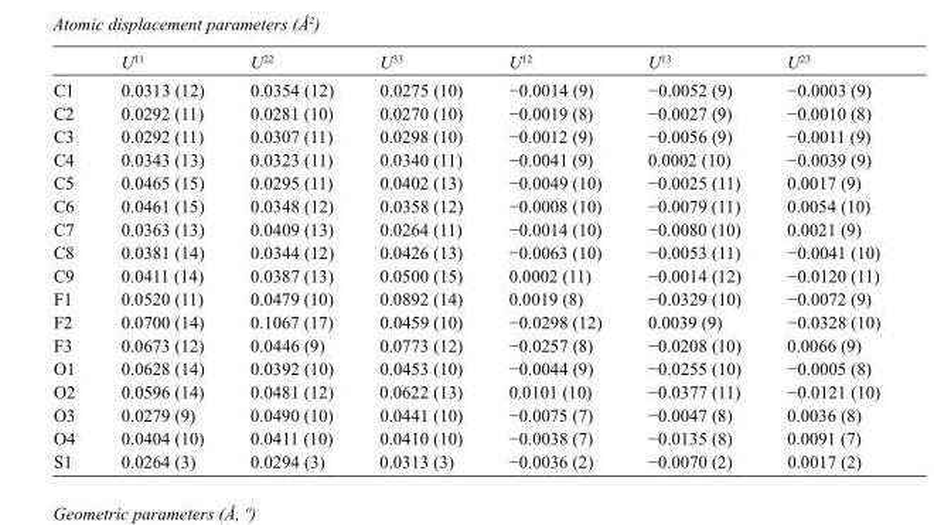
<table><thead><tr><td></td><td>U<sup>11</sup></td><td>U<sup>22</sup></td><td>U<sup>33</sup></td><td>U<sup>12</sup></td><td>U<sup>13</sup></td><td>U<sup>23</sup></td></tr></thead><tbody><tr><td>C1</td><td>0.0313 (12)</td><td>0.0354 (12)</td><td>0.0275 (10)</td><td>−0.0014 (9)</td><td>−0.0052 (9)</td><td>−0.0003 (9)</td></tr><tr><td>C2</td><td>0.0292 (11)</td><td>0.0281 (10)</td><td>0.0270 (10)</td><td>−0.0019 (8)</td><td>−0.0027 (9)</td><td>−0.0010 (8)</td></tr><tr><td>C3</td><td>0.0292 (11)</td><td>0.0307 (11)</td><td>0.0298 (10)</td><td>−0.0012 (9)</td><td>−0.0056 (9)</td><td>−0.0011 (9)</td></tr><tr><td>C4</td><td>0.0343 (13)</td><td>0.0323 (11)</td><td>0.0340 (11)</td><td>−0.0041 (9)</td><td>0.0002 (10)</td><td>−0.0039 (9)</td></tr><tr><td>C5</td><td>0.0465 (15)</td><td>0.0295 (11)</td><td>0.0402 (13)</td><td>−0.0049 (10)</td><td>−0.0025 (11)</td><td>0.0017 (9)</td></tr><tr><td>C6</td><td>0.0461 (15)</td><td>0.0348 (12)</td><td>0.0358 (12)</td><td>−0.0008 (10)</td><td>−0.0079 (11)</td><td>0.0054 (10)</td></tr><tr><td>C7</td><td>0.0363 (13)</td><td>0.0409 (13)</td><td>0.0264 (11)</td><td>−0.0014 (10)</td><td>−0.0080 (10)</td><td>0.0021 (9)</td></tr><tr><td>C8</td><td>0.0381 (14)</td><td>0.0344 (12)</td><td>0.0426 (13)</td><td>−0.0063 (10)</td><td>−0.0053 (11)</td><td>−0.0041 (10)</td></tr><tr><td>C9</td><td>0.0411 (14)</td><td>0.0387 (13)</td><td>0.0500 (15)</td><td>0.0002 (11)</td><td>−0.0014 (12)</td><td>−0.0120 (11)</td></tr><tr><td>F1</td><td>0.0520 (11)</td><td>0.0479 (10)</td><td>0.0892 (14)</td><td>0.0019 (8)</td><td>−0.0329 (10)</td><td>−0.0072 (9)</td></tr><tr><td>F2</td><td>0.0700 (14)</td><td>0.1067 (17)</td><td>0.0459 (10)</td><td>−0.0298 (12)</td><td>0.0039 (9)</td><td>−0.0328 (10)</td></tr><tr><td>F3</td><td>0.0673 (12)</td><td>0.0446 (9)</td><td>0.0773 (12)</td><td>−0.0257 (8)</td><td>−0.0208 (10)</td><td>0.0066 (9)</td></tr><tr><td>O1</td><td>0.0628 (14)</td><td>0.0392 (10)</td><td>0.0453 (10)</td><td>−0.0044 (9)</td><td>−0.0255 (10)</td><td>−0.0005 (8)</td></tr><tr><td>O2</td><td>0.0596 (14)</td><td>0.0481 (12)</td><td>0.0622 (13)</td><td>0.0101 (10)</td><td>−0.0377 (11)</td><td>−0.0121 (10)</td></tr><tr><td>O3</td><td>0.0279 (9)</td><td>0.0490 (10)</td><td>0.0441 (10)</td><td>−0.0075 (7)</td><td>−0.0047 (8)</td><td>0.0036 (8)</td></tr><tr><td>O4</td><td>0.0404 (10)</td><td>0.0411 (10)</td><td>0.0410 (10)</td><td>−0.0038 (7)</td><td>−0.0135 (8)</td><td>0.0091 (7)</td></tr><tr><td>S1</td><td>0.0264 (3)</td><td>0.0294 (3)</td><td>0.0313 (3)</td><td>−0.0036 (2)</td><td>−0.0070 (2)</td><td>0.0017 (2)</td></tr></tbody></table>